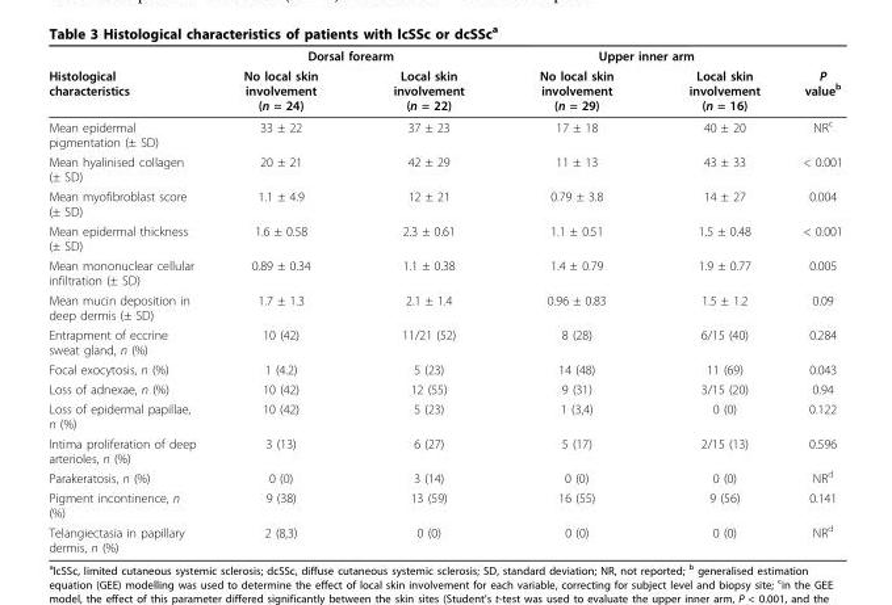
<table><thead><tr><td rowspan="2">Histological characteristics</td><td colspan="2">Dorsal forearm</td><td colspan="2">Upper inner arm</td><td rowspan="2">P value<sup>b</sup></td></tr><tr><td>No local skin involvement (n = 24)</td><td>Local skin involvement (n = 22)</td><td>No local skin involvement (n = 29)</td><td>Local skin involvement (n = 16)</td></tr></thead><tbody><tr><td>Mean epidermal pigmentation (± SD)</td><td>33 ± 22</td><td>37 ± 23</td><td>17 ± 18</td><td>40 ± 20</td><td>NR<sup>c</sup></td></tr><tr><td>Mean hyalinised collagen (± SD)</td><td>20 ± 21</td><td>42 ± 29</td><td>11 ± 13</td><td>43 ± 33</td><td>&lt; 0.001</td></tr><tr><td>Mean myofibroblast score (± SD)</td><td>1.1 ± 4.9</td><td>12 ± 21</td><td>0.79 ± 3.8</td><td>14 ± 27</td><td>0.004</td></tr><tr><td>Mean epidermal thickness (± SD)</td><td>1.6 ± 0.58</td><td>2.3 ± 0.61</td><td>1.1 ± 0.51</td><td>1.5 ± 0.48</td><td>&lt; 0.001</td></tr><tr><td>Mean mononuclear cellular infiltration (± SD)</td><td>0.89 ± 0.34</td><td>1.1 ± 0.38</td><td>1.4 ± 0.79</td><td>1.9 ± 0.77</td><td>0.005</td></tr><tr><td>Mean mucin deposition in deep dermis (± SD)</td><td>1.7 ± 1.3</td><td>2.1 ± 1.4</td><td>0.96 ± 0.83</td><td>1.5 ± 1.2</td><td>0.09</td></tr><tr><td>Entrapment of eccrine sweat gland, n (%)</td><td>10 (42)</td><td>11/21 (52)</td><td>8 (28)</td><td>6/15 (40)</td><td>0.284</td></tr><tr><td>Focal exocytosis, n (%)</td><td>1 (4.2)</td><td>5 (23)</td><td>14 (48)</td><td>11 (69)</td><td>0.043</td></tr><tr><td>Loss of adnexae, n (%)</td><td>10 (42)</td><td>12 (55)</td><td>9 (31)</td><td>3/15 (20)</td><td>0.94</td></tr><tr><td>Loss of epidermal papillae, n (%)</td><td>10 (42)</td><td>5 (23)</td><td>1 (3,4)</td><td>0 (0)</td><td>0.122</td></tr><tr><td>Intima proliferation of deep arterioles, n (%)</td><td>3 (13)</td><td>6 (27)</td><td>5 (17)</td><td>2/15 (13)</td><td>0.596</td></tr><tr><td>Parakeratosis, n (%)</td><td>0 (0)</td><td>3 (14)</td><td>0 (0)</td><td>0 (0)</td><td>NR<sup>d</sup></td></tr><tr><td>Pigment incontinence, n (%)</td><td>9 (38)</td><td>13 (59)</td><td>16 (55)</td><td>9 (56)</td><td>0.141</td></tr><tr><td>Telangiectasia in papillary dermis, n (%)</td><td>2 (8,3)</td><td>0 (0)</td><td>0 (0)</td><td>0 (0)</td><td>NR<sup>d</sup></td></tr></tbody></table>